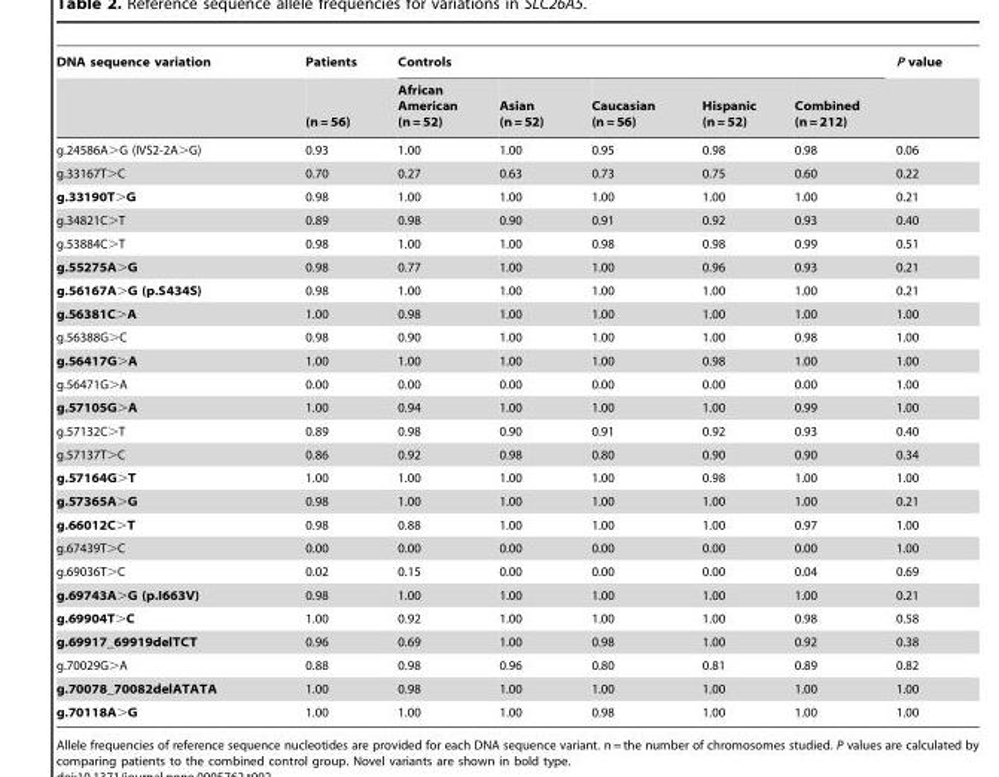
<table><thead><tr><td rowspan="2">DNA sequence variation</td><td rowspan="2">Patients (n = 56)</td><td colspan="5">Controls</td><td rowspan="2">P value</td></tr><tr><td>African American (n = 52)</td><td>Asian (n = 52)</td><td>Caucasian (n = 56)</td><td>Hispanic (n = 52)</td><td>Combined (n = 212)</td></tr></thead><tbody><tr><td>g.24586A&gt;G (IVS2-2A&gt;G)</td><td>0.93</td><td>1.00</td><td>1.00</td><td>0.95</td><td>0.98</td><td>0.98</td><td>0.06</td></tr><tr><td>g.33167T&gt;C</td><td>0.70</td><td>0.27</td><td>0.63</td><td>0.73</td><td>0.75</td><td>0.60</td><td>0.22</td></tr><tr><td>g.33190T&gt;G</td><td>0.98</td><td>1.00</td><td>1.00</td><td>1.00</td><td>1.00</td><td>1.00</td><td>0.21</td></tr><tr><td>g.34821C&gt;T</td><td>0.89</td><td>0.98</td><td>0.90</td><td>0.91</td><td>0.92</td><td>0.93</td><td>0.40</td></tr><tr><td>g.53884C&gt;T</td><td>0.98</td><td>1.00</td><td>1.00</td><td>0.98</td><td>0.98</td><td>0.99</td><td>0.51</td></tr><tr><td>g.55275A&gt;G</td><td>0.98</td><td>0.77</td><td>1.00</td><td>1.00</td><td>0.96</td><td>0.93</td><td>0.21</td></tr><tr><td>g.56167A&gt;G (p.S434S)</td><td>0.98</td><td>1.00</td><td>1.00</td><td>1.00</td><td>1.00</td><td>1.00</td><td>0.21</td></tr><tr><td>g.56381C&gt;A</td><td>1.00</td><td>0.98</td><td>1.00</td><td>1.00</td><td>1.00</td><td>1.00</td><td>1.00</td></tr><tr><td>g.56388G&gt;C</td><td>0.98</td><td>0.90</td><td>1.00</td><td>1.00</td><td>1.00</td><td>0.98</td><td>1.00</td></tr><tr><td>g.56417G&gt;A</td><td>1.00</td><td>1.00</td><td>1.00</td><td>1.00</td><td>0.98</td><td>1.00</td><td>1.00</td></tr><tr><td>g.56471G&gt;A</td><td>0.00</td><td>0.00</td><td>0.00</td><td>0.00</td><td>0.00</td><td>0.00</td><td>1.00</td></tr><tr><td>g.57105G&gt;A</td><td>1.00</td><td>0.94</td><td>1.00</td><td>1.00</td><td>1.00</td><td>0.99</td><td>1.00</td></tr><tr><td>g.57132C&gt;T</td><td>0.89</td><td>0.98</td><td>0.90</td><td>0.91</td><td>0.92</td><td>0.93</td><td>0.40</td></tr><tr><td>g.57137T&gt;C</td><td>0.86</td><td>0.92</td><td>0.98</td><td>0.80</td><td>0.90</td><td>0.90</td><td>0.34</td></tr><tr><td>g.57164G&gt;T</td><td>1.00</td><td>1.00</td><td>1.00</td><td>1.00</td><td>0.98</td><td>1.00</td><td>1.00</td></tr><tr><td>g.57365A&gt;G</td><td>0.98</td><td>1.00</td><td>1.00</td><td>1.00</td><td>1.00</td><td>1.00</td><td>0.21</td></tr><tr><td>g.66012C&gt;T</td><td>0.98</td><td>0.88</td><td>1.00</td><td>1.00</td><td>1.00</td><td>0.97</td><td>1.00</td></tr><tr><td>g.67439T&gt;C</td><td>0.00</td><td>0.00</td><td>0.00</td><td>0.00</td><td>0.00</td><td>0.00</td><td>1.00</td></tr><tr><td>g.69036T&gt;C</td><td>0.02</td><td>0.15</td><td>0.00</td><td>0.00</td><td>0.00</td><td>0.04</td><td>0.69</td></tr><tr><td>g.69743A&gt;G (p.I663V)</td><td>0.98</td><td>1.00</td><td>1.00</td><td>1.00</td><td>1.00</td><td>1.00</td><td>0.21</td></tr><tr><td>g.69904T&gt;C</td><td>1.00</td><td>0.92</td><td>1.00</td><td>1.00</td><td>1.00</td><td>0.98</td><td>0.58</td></tr><tr><td>g.69917_69919delTCT</td><td>0.96</td><td>0.69</td><td>1.00</td><td>0.98</td><td>1.00</td><td>0.92</td><td>0.38</td></tr><tr><td>g.70029G&gt;A</td><td>0.88</td><td>0.98</td><td>0.96</td><td>0.80</td><td>0.81</td><td>0.89</td><td>0.82</td></tr><tr><td>g.70078_70082delATATA</td><td>1.00</td><td>0.98</td><td>1.00</td><td>1.00</td><td>1.00</td><td>1.00</td><td>1.00</td></tr><tr><td>g.70118A&gt;G</td><td>1.00</td><td>1.00</td><td>1.00</td><td>0.98</td><td>1.00</td><td>1.00</td><td>1.00</td></tr></tbody></table>